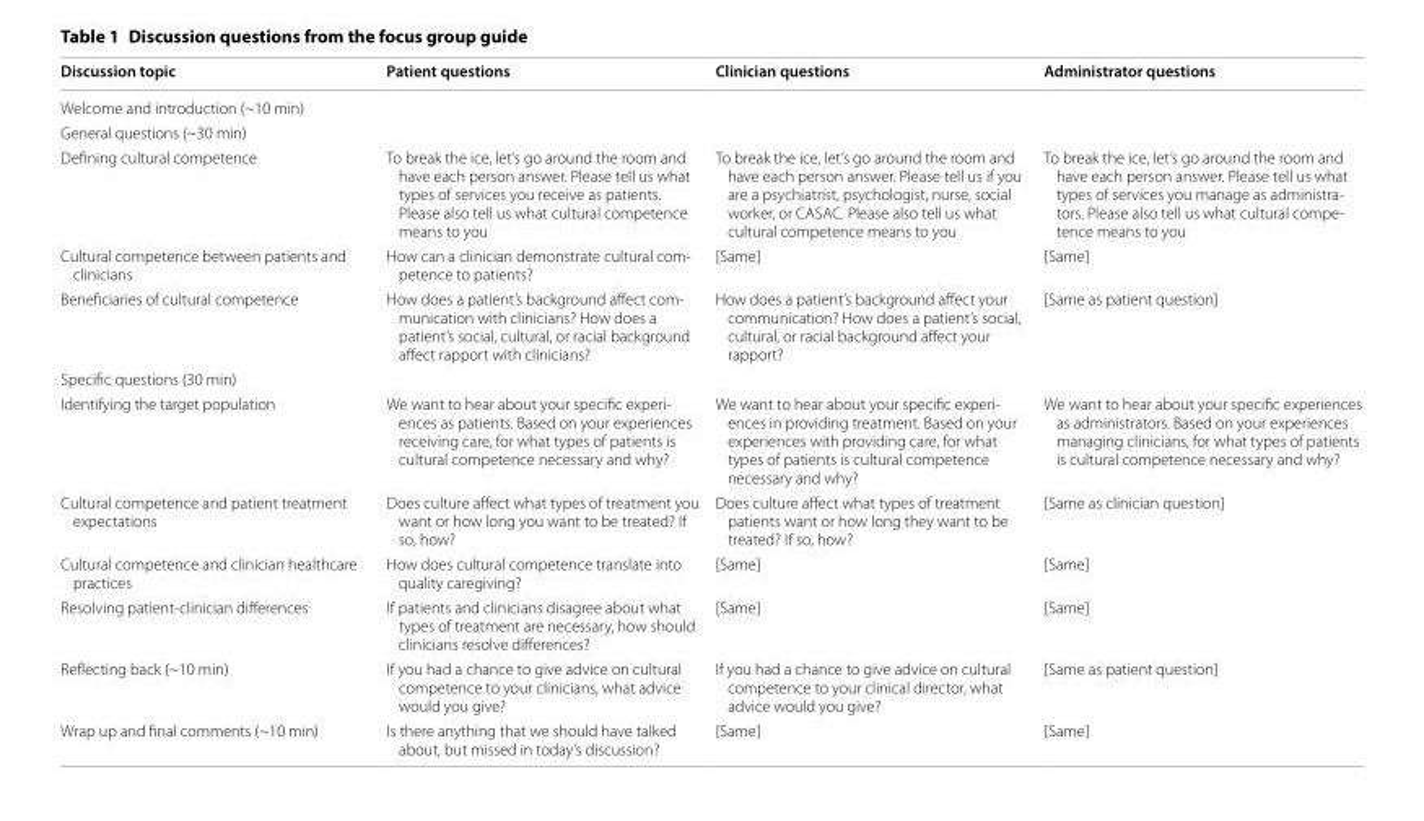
<table><thead><tr><td>Discussion topic</td><td>Patient questions</td><td>Clinician questions</td><td>Administrator questions</td></tr></thead><tbody><tr><td colspan="4">Welcome and introduction (~10 min)</td></tr><tr><td colspan="4">General questions (~30 min)</td></tr><tr><td>Defining cultural competence</td><td>To break the ice, let’s go around the room and have each person answer. Please tell us what types of services you receive as patients. Please also tell us what cultural competence means to you</td><td>To break the ice, let’s go around the room and have each person answer. Please tell us if you are a psychiatrist, psychologist, nurse, social worker, or CASAC. Please also tell us what cultural competence means to you</td><td>To break the ice, let’s go around the room and have each person answer. Please tell us what types of services you manage as administra‑ tors. Please also tell us what cultural compe‑ tence means to you</td></tr><tr><td>Cultural competence between patients and clinicians</td><td>How can a clinician demonstrate cultural com‑ petence to patients?</td><td>[Same]</td><td>[Same]</td></tr><tr><td>Beneficiaries of cultural competence</td><td>How does a patient’s background affect com‑ munication with clinicians? How does a patient’s social, cultural, or racial background affect rapport with clinicians?</td><td>How does a patient’s background affect your communication? How does a patient’s social, cultural, or racial background affect your rapport?</td><td>[Same as patient question]</td></tr><tr><td colspan="4">Specific questions (30 min)</td></tr><tr><td>Identifying the target population</td><td>We want to hear about your specific experi‑ ences as patients. Based on your experiences receiving care, for what types of patients is cultural competence necessary and why?</td><td>We want to hear about your specific experi‑ ences in providing treatment. Based on your experiences with providing care, for what types of patients is cultural competence necessary and why?</td><td>We want to hear about your specific experiences as administrators. Based on your experiences managing clinicians, for what types of patients is cultural competence necessary and why?</td></tr><tr><td>Cultural competence and patient treatment expectations</td><td>Does culture affect what types of treatment you want or how long you want to be treated? If so, how?</td><td>Does culture affect what types of treatment patients want or how long they want to be treated? If so, how?</td><td>[Same as clinician question]</td></tr><tr><td>Cultural competence and clinician healthcare practices</td><td>How does cultural competence translate into quality caregiving?</td><td>[Same]</td><td>[Same]</td></tr><tr><td>Resolving patient‑clinician differences</td><td>If patients and clinicians disagree about what types of treatment are necessary, how should clinicians resolve differences?</td><td>[Same]</td><td>[Same]</td></tr><tr><td>Reflecting back (~10 min)</td><td>If you had a chance to give advice on cultural competence to your clinicians, what advice would you give?</td><td>If you had a chance to give advice on cultural competence to your clinical director, what advice would you give?</td><td>[Same as patient question]</td></tr><tr><td>Wrap up and final comments (~10 min)</td><td>Is there anything that we should have talked about, but missed in today’s discussion?</td><td>[Same]</td><td>[Same]</td></tr></tbody></table>